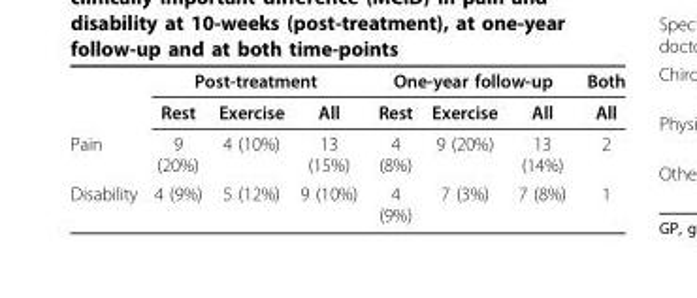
<table><thead><tr><td rowspan="2"></td><td colspan="3">Post-treatment</td><td colspan="3">One-year follow-up</td><td rowspan="2">Both All</td></tr><tr><td>Rest</td><td>Exercise</td><td>All</td><td>Rest</td><td>Exercise</td><td>All</td></tr></thead><tbody><tr><td>Pain</td><td>9 (20%)</td><td>4 (10%)</td><td>13 (15%)</td><td>4 (8%)</td><td>9 (20%)</td><td>13 (14%)</td><td>2</td></tr><tr><td>Disability</td><td>4 (9%)</td><td>5 (12%)</td><td>9 (10%)</td><td>4 (9%)</td><td>7 (3%)</td><td>7 (8%)</td><td>1</td></tr></tbody></table>